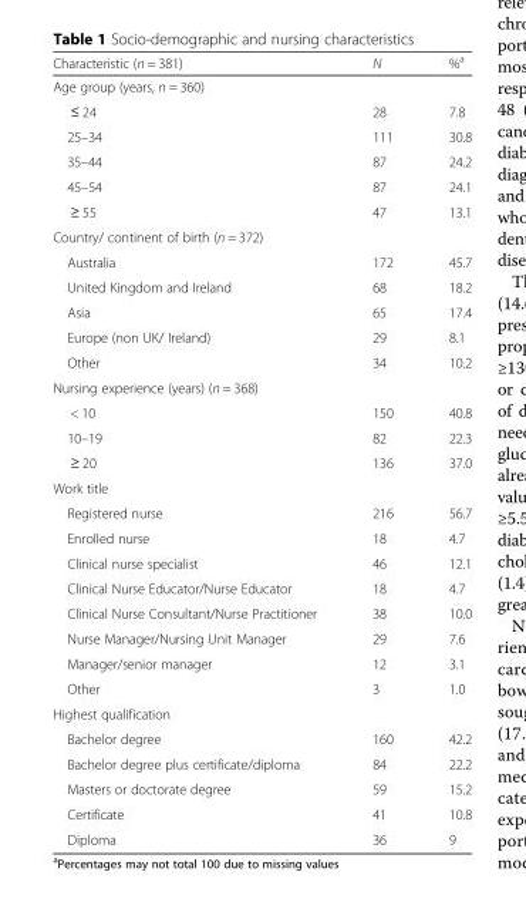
<table><thead><tr><td>Characteristic (n = 381)</td><td>N</td><td>%<sup>a</sup></td></tr></thead><tbody><tr><td colspan="3">Age group (years, n = 360)</td></tr><tr><td>≤ 24</td><td>28</td><td>7.8</td></tr><tr><td>25–34</td><td>111</td><td>30.8</td></tr><tr><td>35–44</td><td>87</td><td>24.2</td></tr><tr><td>45–54</td><td>87</td><td>24.1</td></tr><tr><td>≥ 55</td><td>47</td><td>13.1</td></tr><tr><td colspan="3">Country/ continent of birth (n = 372)</td></tr><tr><td>Australia</td><td>172</td><td>45.7</td></tr><tr><td>United Kingdom and Ireland</td><td>68</td><td>18.2</td></tr><tr><td>Asia</td><td>65</td><td>17.4</td></tr><tr><td>Europe (non UK/ Ireland)</td><td>29</td><td>8.1</td></tr><tr><td>Other</td><td>34</td><td>10.2</td></tr><tr><td colspan="3">Nursing experience (years) (n = 368)</td></tr><tr><td>&lt; 10</td><td>150</td><td>40.8</td></tr><tr><td>10–19</td><td>82</td><td>22.3</td></tr><tr><td>≥ 20</td><td>136</td><td>37.0</td></tr><tr><td colspan="3">Work title</td></tr><tr><td>Registered nurse</td><td>216</td><td>56.7</td></tr><tr><td>Enrolled nurse</td><td>18</td><td>4.7</td></tr><tr><td>Clinical nurse specialist</td><td>46</td><td>12.1</td></tr><tr><td>Clinical Nurse Educator/Nurse Educator</td><td>18</td><td>4.7</td></tr><tr><td>Clinical Nurse Consultant/Nurse Practitioner</td><td>38</td><td>10.0</td></tr><tr><td>Nurse Manager/Nursing Unit Manager</td><td>29</td><td>7.6</td></tr><tr><td>Manager/senior manager</td><td>12</td><td>3.1</td></tr><tr><td>Other</td><td>3</td><td>1.0</td></tr><tr><td colspan="3">Highest qualification</td></tr><tr><td>Bachelor degree</td><td>160</td><td>42.2</td></tr><tr><td>Bachelor degree plus certificate/diploma</td><td>84</td><td>22.2</td></tr><tr><td>Masters or doctorate degree</td><td>59</td><td>15.2</td></tr><tr><td>Certificate</td><td>41</td><td>10.8</td></tr><tr><td>Diploma</td><td>36</td><td>9</td></tr></tbody></table>